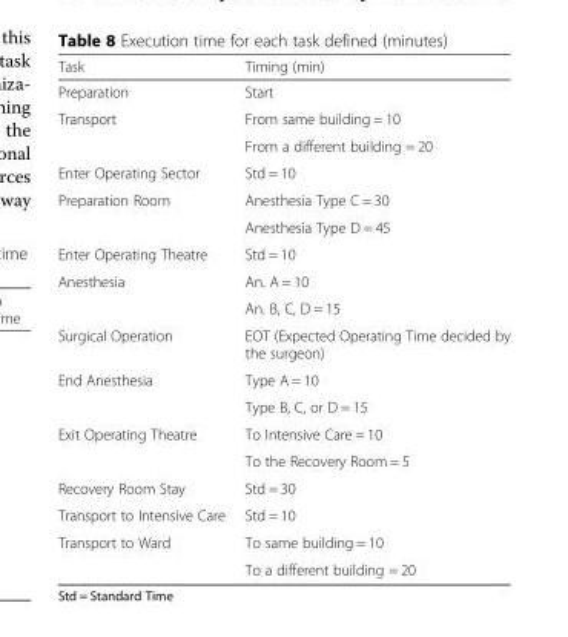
<table><thead><tr><td>Task</td><td>Timing (min)</td></tr></thead><tbody><tr><td>Preparation</td><td>Start</td></tr><tr><td rowspan="2">Transport</td><td>From same building = 10</td></tr><tr><td>From a different building = 20</td></tr><tr><td>Enter Operating Sector</td><td>Std = 10</td></tr><tr><td rowspan="2">Preparation Room</td><td>Anesthesia Type C = 30</td></tr><tr><td>Anesthesia Type D = 45</td></tr><tr><td>Enter Operating Theatre</td><td>Std = 10</td></tr><tr><td rowspan="2">Anesthesia</td><td>An. A = 10</td></tr><tr><td>An. B, C, D = 15</td></tr><tr><td>Surgical Operation</td><td>EOT (Expected Operating Time decided by the surgeon)</td></tr><tr><td rowspan="2">End Anesthesia</td><td>Type A = 10</td></tr><tr><td>Type B, C, or D = 15</td></tr><tr><td rowspan="2">Exit Operating Theatre</td><td>To Intensive Care = 10</td></tr><tr><td>To the Recovery Room = 5</td></tr><tr><td>Recovery Room Stay</td><td>Std = 30</td></tr><tr><td>Transport to Intensive Care</td><td>Std = 10</td></tr><tr><td rowspan="2">Transport to Ward</td><td>To same building = 10</td></tr><tr><td>To a different building = 20</td></tr></tbody></table>